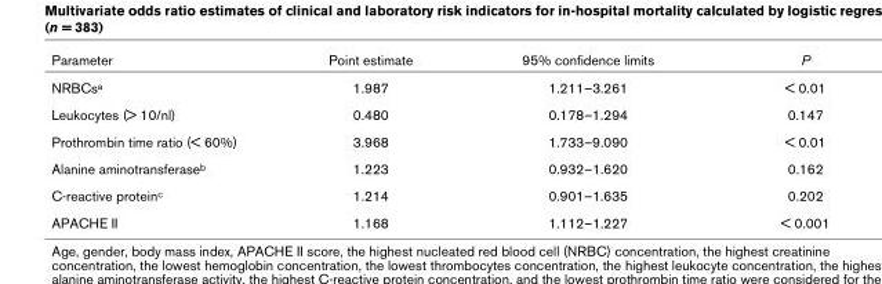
<table><thead><tr><td>Parameter</td><td>Point estimate</td><td>95% confidence limits</td><td>P</td></tr></thead><tbody><tr><td>NRBCs<sup>a</sup></td><td>1.987</td><td>1.211–3.261</td><td>&lt; 0.01</td></tr><tr><td>Leukocytes (&gt; 10/nl)</td><td>0.480</td><td>0.178–1.294</td><td>0.147</td></tr><tr><td>Prothrombin time ratio (&lt; 60%)</td><td>3.968</td><td>1.733–9.090</td><td>&lt; 0.01</td></tr><tr><td>Alanine aminotransferase<sup>b</sup></td><td>1.223</td><td>0.932–1.620</td><td>0.162</td></tr><tr><td>C-reactive protein<sup>c</sup></td><td>1.214</td><td>0.901–1.635</td><td>0.202</td></tr><tr><td>APACHE II</td><td>1.168</td><td>1.112–1.227</td><td>&lt; 0.001</td></tr></tbody></table>